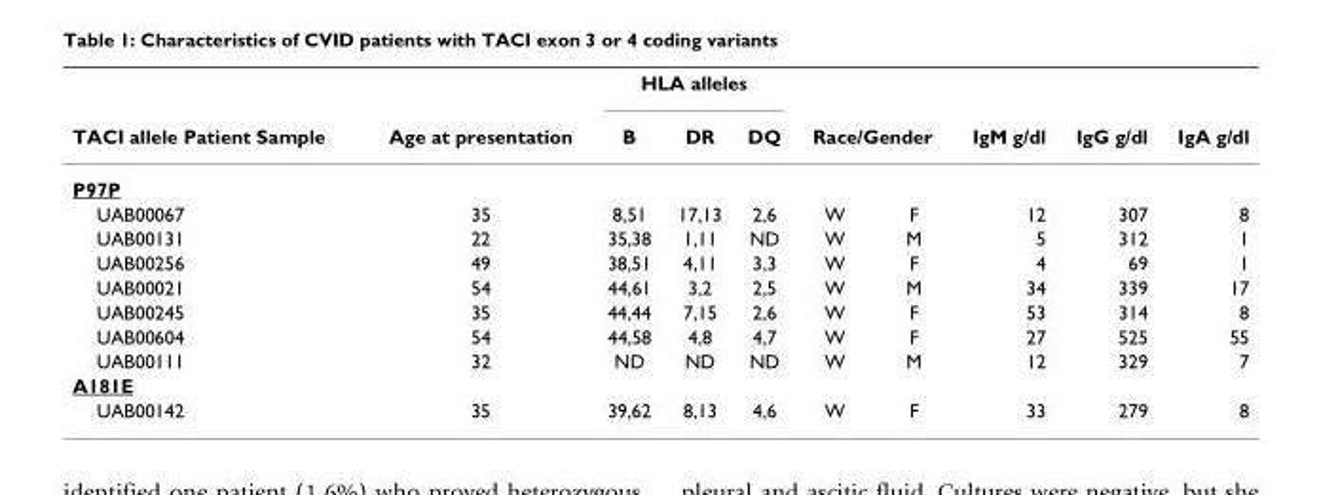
<table><thead><tr><td rowspan="2">TACI allele Patient Sample</td><td rowspan="2">Age at presentation</td><td colspan="3">HLA alleles</td><td></td><td></td><td rowspan="2">IgM g/dl</td><td rowspan="2">IgG g/dl</td><td rowspan="2">IgA g/dl</td></tr><tr><td>B</td><td>DR</td><td>DQ</td><td colspan="2">Race/Gender</td></tr></thead><tbody><tr><td colspan="10">P97P</td></tr><tr><td>UAB00067</td><td>35</td><td>8,51</td><td>17,13</td><td>2,6</td><td>W</td><td>F</td><td>12</td><td>307</td><td>8</td></tr><tr><td>UAB00131</td><td>22</td><td>35,38</td><td>1,11</td><td>ND</td><td>W</td><td>M</td><td>5</td><td>312</td><td>1</td></tr><tr><td>UAB00256</td><td>49</td><td>38,51</td><td>4,11</td><td>3,3</td><td>W</td><td>F</td><td>4</td><td>69</td><td>1</td></tr><tr><td>UAB00021</td><td>54</td><td>44,61</td><td>3,2</td><td>2,5</td><td>W</td><td>M</td><td>34</td><td>339</td><td>17</td></tr><tr><td>UAB00245</td><td>35</td><td>44,44</td><td>7,15</td><td>2,6</td><td>W</td><td>F</td><td>53</td><td>314</td><td>8</td></tr><tr><td>UAB00604</td><td>54</td><td>44,58</td><td>4,8</td><td>4,7</td><td>W</td><td>F</td><td>27</td><td>525</td><td>55</td></tr><tr><td>UAB00111</td><td>32</td><td>ND</td><td>ND</td><td>ND</td><td>W</td><td>M</td><td>12</td><td>329</td><td>7</td></tr><tr><td colspan="10">A181E</td></tr><tr><td>UAB00142</td><td>35</td><td>39,62</td><td>8,13</td><td>4,6</td><td>W</td><td>F</td><td>33</td><td>279</td><td>8</td></tr></tbody></table>